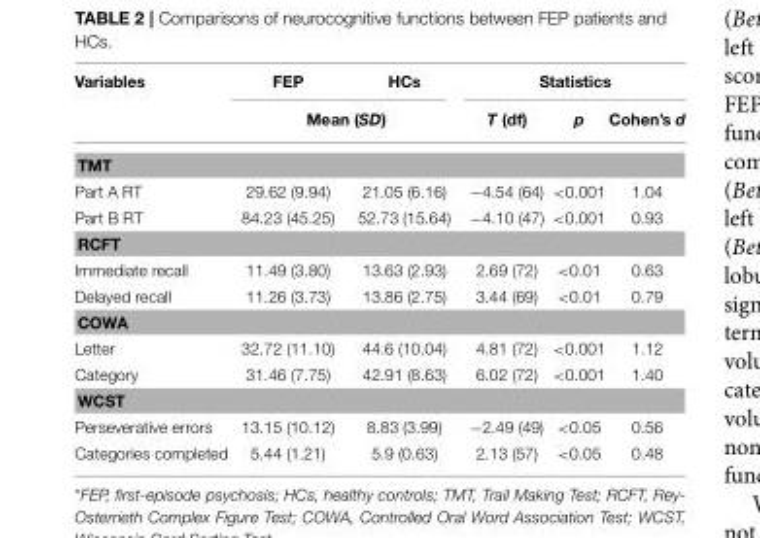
<table><thead><tr><td rowspan="2">Variables</td><td>FEP</td><td>HCs</td><td colspan="3">Statistics</td></tr><tr><td colspan="2">Mean (SD)</td><td>T (df)</td><td>p</td><td>Cohen’s d</td></tr></thead><tbody><tr><td colspan="6">TMT</td></tr><tr><td>Part A RT</td><td>29.62 (9.94)</td><td>21.05 (6.16)</td><td>−4.54 (64)</td><td>&lt;0.001</td><td>1.04</td></tr><tr><td>Part B RT</td><td>84.23 (45.25)</td><td>52.73 (15.64)</td><td>−4.10 (47)</td><td>&lt;0.001</td><td>0.93</td></tr><tr><td colspan="6">RCFT</td></tr><tr><td>Immediate recall</td><td>11.49 (3.80)</td><td>13.63 (2.93)</td><td>2.69 (72)</td><td>&lt;0.01</td><td>0.63</td></tr><tr><td>Delayed recall</td><td>11.26 (3.73)</td><td>13.86 (2.75)</td><td>3.44 (69)</td><td>&lt;0.01</td><td>0.79</td></tr><tr><td colspan="6">COWA</td></tr><tr><td>Letter</td><td>32.72 (11.10)</td><td>44.6 (10.04)</td><td>4.81 (72)</td><td>&lt;0.001</td><td>1.12</td></tr><tr><td>Category</td><td>31.46 (7.75)</td><td>42.91 (8.63)</td><td>6.02 (72)</td><td>&lt;0.001</td><td>1.40</td></tr><tr><td colspan="6">WCST</td></tr><tr><td>Perseverative errors</td><td>13.15 (10.12)</td><td>8.83 (3.99)</td><td>−2.49 (49)</td><td>&lt;0.05</td><td>0.56</td></tr><tr><td>Categories completed</td><td>5.44 (1.21)</td><td>5.9 (0.63)</td><td>2.13 (57)</td><td>&lt;0.05</td><td>0.48</td></tr></tbody></table>